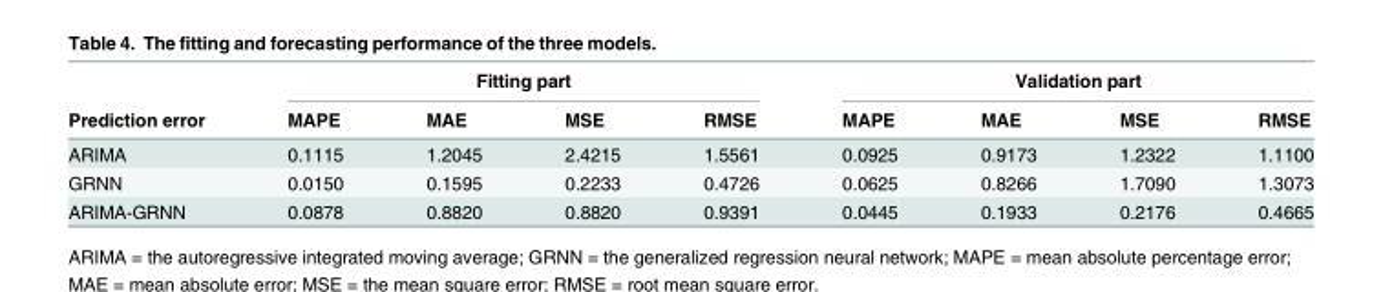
<table><thead><tr><td rowspan="2">Prediction error</td><td colspan="4">Fitting part</td><td colspan="4">Validation part</td></tr><tr><td>MAPE</td><td>MAE</td><td>MSE</td><td>RMSE</td><td>MAPE</td><td>MAE</td><td>MSE</td><td>RMSE</td></tr></thead><tbody><tr><td>ARIMA</td><td>0.1115</td><td>1.2045</td><td>2.4215</td><td>1.5561</td><td>0.0925</td><td>0.9173</td><td>1.2322</td><td>1.1100</td></tr><tr><td>GRNN</td><td>0.0150</td><td>0.1595</td><td>0.2233</td><td>0.4726</td><td>0.0625</td><td>0.8266</td><td>1.7090</td><td>1.3073</td></tr><tr><td>ARIMA-GRNN</td><td>0.0878</td><td>0.8820</td><td>0.8820</td><td>0.9391</td><td>0.0445</td><td>0.1933</td><td>0.2176</td><td>0.4665</td></tr></tbody></table>